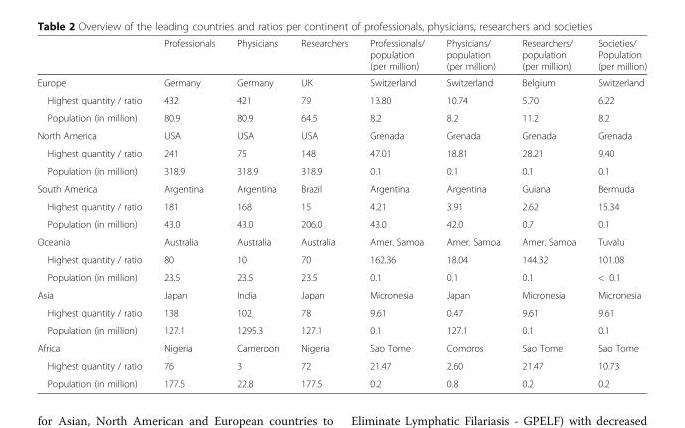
<table><thead><tr><td></td><td>Professionals</td><td>Physicians</td><td>Researchers</td><td>Professionals/ population (per million)</td><td>Physicians/ population (per million)</td><td>Researchers/ population (per million)</td><td>Societies/ Population (per million)</td></tr></thead><tbody><tr><td>Europe</td><td>Germany</td><td>Germany</td><td>UK</td><td>Switzerland</td><td>Switzerland</td><td>Belgium</td><td>Switzerland</td></tr><tr><td>Highest quantity / ratio</td><td>432</td><td>421</td><td>79</td><td>13.80</td><td>10.74</td><td>5.70</td><td>6.22</td></tr><tr><td>Population (in million)</td><td>80.9</td><td>80.9</td><td>64.5</td><td>8.2</td><td>8.2</td><td>11.2</td><td>8.2</td></tr><tr><td>North America</td><td>USA</td><td>USA</td><td>USA</td><td>Grenada</td><td>Grenada</td><td>Grenada</td><td>Grenada</td></tr><tr><td>Highest quantity / ratio</td><td>241</td><td>75</td><td>148</td><td>47.01</td><td>18.81</td><td>28.21</td><td>9.40</td></tr><tr><td>Population (in million)</td><td>318.9</td><td>318.9</td><td>318.9</td><td>0.1</td><td>0.1</td><td>0.1</td><td>0.1</td></tr><tr><td>South America</td><td>Argentina</td><td>Argentina</td><td>Brazil</td><td>Argentina</td><td>Argentina</td><td>Guiana</td><td>Bermuda</td></tr><tr><td>Highest quantity / ratio</td><td>181</td><td>168</td><td>15</td><td>4.21</td><td>3.91</td><td>2.62</td><td>15.34</td></tr><tr><td>Population (in million)</td><td>43.0</td><td>43.0</td><td>206.0</td><td>43.0</td><td>42.0</td><td>0.7</td><td>0.1</td></tr><tr><td>Oceania</td><td>Australia</td><td>Australia</td><td>Australia</td><td>Amer. Samoa</td><td>Amer. Samoa</td><td>Amer. Samoa</td><td>Tuvalu</td></tr><tr><td>Highest quantity / ratio</td><td>80</td><td>10</td><td>70</td><td>162.36</td><td>18.04</td><td>144.32</td><td>101.08</td></tr><tr><td>Population (in million)</td><td>23.5</td><td>23.5</td><td>23.5</td><td>0.1</td><td>0.1</td><td>0.1</td><td>&lt; 0.1</td></tr><tr><td>Asia</td><td>Japan</td><td>India</td><td>Japan</td><td>Micronesia</td><td>Japan</td><td>Micronesia</td><td>Micronesia</td></tr><tr><td>Highest quantity / ratio</td><td>138</td><td>102</td><td>78</td><td>9.61</td><td>0.47</td><td>9.61</td><td>9.61</td></tr><tr><td>Population (in million)</td><td>127.1</td><td>1295.3</td><td>127.1</td><td>0.1</td><td>127.1</td><td>0.1</td><td>0.1</td></tr><tr><td>Africa</td><td>Nigeria</td><td>Cameroon</td><td>Nigeria</td><td>Sao Tome</td><td>Comoros</td><td>Sao Tome</td><td>Sao Tome</td></tr><tr><td>Highest quantity / ratio</td><td>76</td><td>3</td><td>72</td><td>21.47</td><td>2.60</td><td>21.47</td><td>10.73</td></tr><tr><td>Population (in million)</td><td>177.5</td><td>22.8</td><td>177.5</td><td>0.2</td><td>0.8</td><td>0.2</td><td>0.2</td></tr></tbody></table>